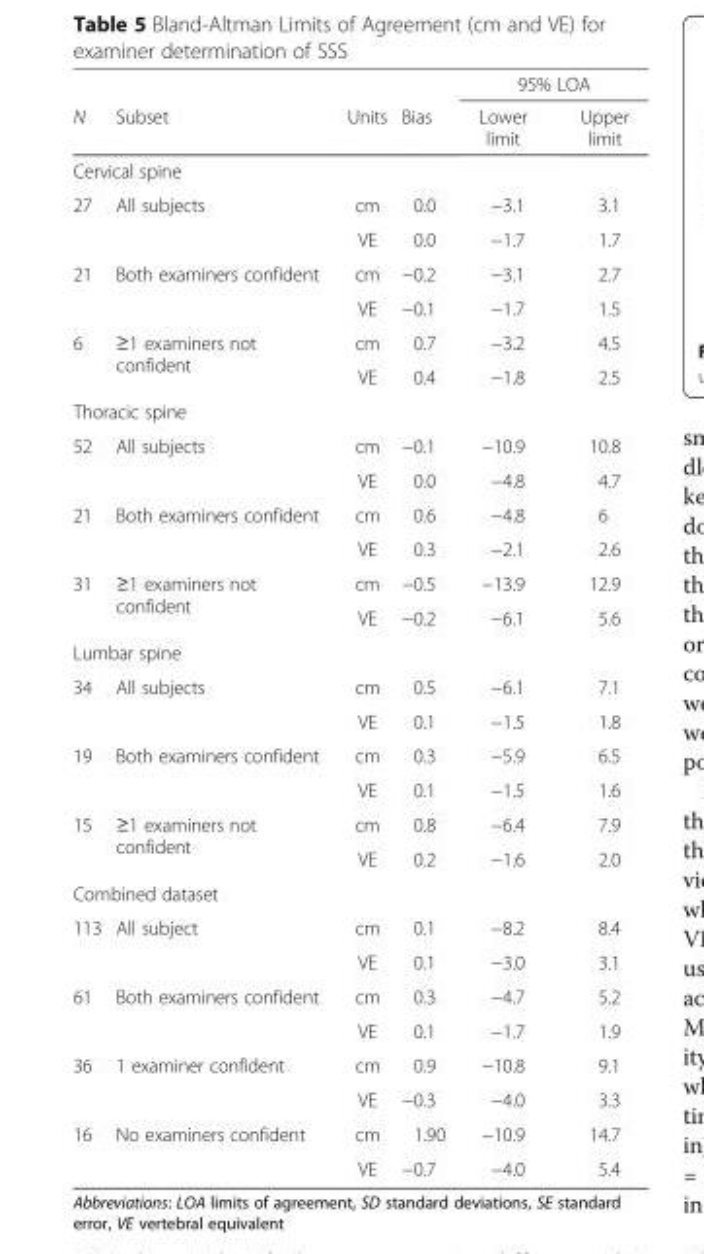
<table><thead><tr><td rowspan="2">N</td><td rowspan="2">Subset</td><td rowspan="2">Units</td><td rowspan="2">Bias</td><td colspan="2">95% LOA</td></tr><tr><td>Lower limit</td><td>Upper limit</td></tr></thead><tbody><tr><td colspan="6">Cervical spine</td></tr><tr><td rowspan="2">27</td><td rowspan="2">All subjects</td><td>cm</td><td>0.0</td><td>−3.1</td><td>3.1</td></tr><tr><td>VE</td><td>0.0</td><td>−1.7</td><td>1.7</td></tr><tr><td rowspan="2">21</td><td rowspan="2">Both examiners confident</td><td>cm</td><td>−0.2</td><td>−3.1</td><td>2.7</td></tr><tr><td>VE</td><td>−0.1</td><td>−1.7</td><td>1.5</td></tr><tr><td rowspan="2">6</td><td rowspan="2">≥1 examiners not confident</td><td>cm</td><td>0.7</td><td>−3.2</td><td>4.5</td></tr><tr><td>VE</td><td>0.4</td><td>−1.8</td><td>2.5</td></tr><tr><td colspan="6">Thoracic spine</td></tr><tr><td rowspan="2">52</td><td rowspan="2">All subjects</td><td>cm</td><td>−0.1</td><td>−10.9</td><td>10.8</td></tr><tr><td>VE</td><td>0.0</td><td>−4.8</td><td>4.7</td></tr><tr><td rowspan="2">21</td><td rowspan="2">Both examiners confident</td><td>cm</td><td>0.6</td><td>−4.8</td><td>6</td></tr><tr><td>VE</td><td>0.3</td><td>−2.1</td><td>2.6</td></tr><tr><td rowspan="2">31</td><td rowspan="2">≥1 examiners not confident</td><td>cm</td><td>−0.5</td><td>−13.9</td><td>12.9</td></tr><tr><td>VE</td><td>−0.2</td><td>−6.1</td><td>5.6</td></tr><tr><td colspan="6">Lumbar spine</td></tr><tr><td rowspan="2">34</td><td rowspan="2">All subjects</td><td>cm</td><td>0.5</td><td>−6.1</td><td>7.1</td></tr><tr><td>VE</td><td>0.1</td><td>−1.5</td><td>1.8</td></tr><tr><td rowspan="2">19</td><td rowspan="2">Both examiners confident</td><td>cm</td><td>0.3</td><td>−5.9</td><td>6.5</td></tr><tr><td>VE</td><td>0.1</td><td>−1.5</td><td>1.6</td></tr><tr><td rowspan="2">15</td><td rowspan="2">≥1 examiners not confident</td><td>cm</td><td>0.8</td><td>−6.4</td><td>7.9</td></tr><tr><td>VE</td><td>0.2</td><td>−1.6</td><td>2.0</td></tr><tr><td colspan="6">Combined dataset</td></tr><tr><td rowspan="2">113</td><td rowspan="2">All subject</td><td>cm</td><td>0.1</td><td>−8.2</td><td>8.4</td></tr><tr><td>VE</td><td>0.1</td><td>−3.0</td><td>3.1</td></tr><tr><td rowspan="2">61</td><td rowspan="2">Both examiners confident</td><td>cm</td><td>0.3</td><td>−4.7</td><td>5.2</td></tr><tr><td>VE</td><td>0.1</td><td>−1.7</td><td>1.9</td></tr><tr><td rowspan="2">36</td><td rowspan="2">1 examiner confident</td><td>cm</td><td>0.9</td><td>−10.8</td><td>9.1</td></tr><tr><td>VE</td><td>−0.3</td><td>−4.0</td><td>3.3</td></tr><tr><td rowspan="2">16</td><td rowspan="2">No examiners confident</td><td>cm</td><td>1.90</td><td>−10.9</td><td>14.7</td></tr><tr><td>VE</td><td>−0.7</td><td>−4.0</td><td>5.4</td></tr></tbody></table>